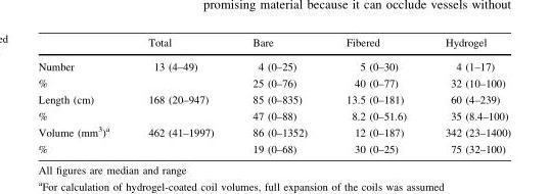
<table><thead><tr><td></td><td>Total</td><td>Bare</td><td>Fibered</td><td>Hydrogel</td></tr></thead><tbody><tr><td>Number</td><td>13 (4–49)</td><td>4 (0–25)</td><td>5 (0–30)</td><td>4 (1–17)</td></tr><tr><td>%</td><td></td><td>25 (0–76)</td><td>40 (0–77)</td><td>32 (10–100)</td></tr><tr><td>Length (cm)</td><td>168 (20–947)</td><td>85 (0–835)</td><td>13.5 (0–181)</td><td>60 (4–239)</td></tr><tr><td>%</td><td></td><td>47 (0–88)</td><td>8.2 (0–51.6)</td><td>35 (8.4–100)</td></tr><tr><td>Volume (mm<sup>3</sup>)<sup>a</sup></td><td>462 (41–1997)</td><td>86 (0–1352)</td><td>12 (0–187)</td><td>342 (23–1400)</td></tr><tr><td>%</td><td></td><td>19 (0–68)</td><td>30 (0–25)</td><td>75 (32–100)</td></tr></tbody></table>